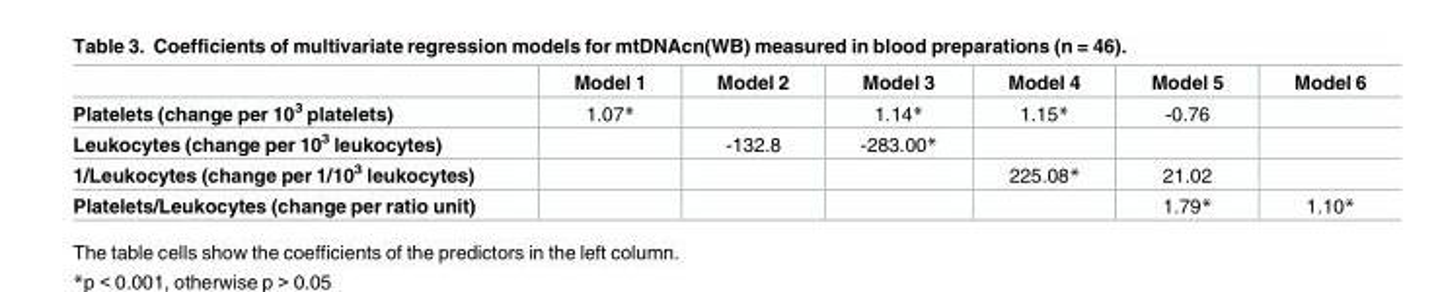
<table><thead><tr><td></td><td>Model 1</td><td>Model 2</td><td>Model 3</td><td>Model 4</td><td>Model 5</td><td>Model 6</td></tr></thead><tbody><tr><td>Platelets (change per 10<sup>3</sup> platelets)</td><td>1.07*</td><td></td><td>1.14*</td><td>1.15*</td><td>-0.76</td><td></td></tr><tr><td>Leukocytes (change per 10<sup>3</sup> leukocytes)</td><td></td><td>-132.8</td><td>-283.00*</td><td></td><td></td><td></td></tr><tr><td>1/Leukocytes (change per 1/10<sup>3</sup> leukocytes)</td><td></td><td></td><td></td><td>225.08*</td><td>21.02</td><td></td></tr><tr><td>Platelets/Leukocytes (change per ratio unit)</td><td></td><td></td><td></td><td></td><td>1.79*</td><td>1.10*</td></tr></tbody></table>